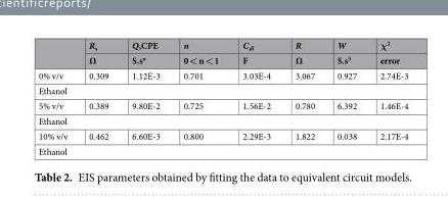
<table><thead><tr><td rowspan="2"></td><td rowspan="2">R<sub>s</sub> Ω</td><td rowspan="2">Q,CPE S.s<sup>n</sup></td><td rowspan="2">n 0 &lt; n &lt; 1</td><td rowspan="2">C<sub>dl</sub> F</td><td rowspan="2">R Ω</td><td rowspan="2">W S.s<sup>5</sup></td><td rowspan="2">χ<sup>2</sup> error</td></tr><tr></tr></thead><tbody><tr><td>0% v/v</td><td>0.309</td><td>1.12E-3</td><td>0.701</td><td>3.03E-4</td><td>3.067</td><td>0.927</td><td>2.74E-3</td></tr><tr><td colspan="8">Ethanol</td></tr><tr><td>5% v/v</td><td>0.389</td><td>9.80E-2</td><td>0.725</td><td>1.56E-2</td><td>0.780</td><td>6.392</td><td>1.46E-4</td></tr><tr><td colspan="8">Ethanol</td></tr><tr><td>10% v/v</td><td>0.462</td><td>6.60E-3</td><td>0.800</td><td>2.29E-3</td><td>1.822</td><td>0.038</td><td>2.17E-4</td></tr><tr><td colspan="8">Ethanol</td></tr></tbody></table>